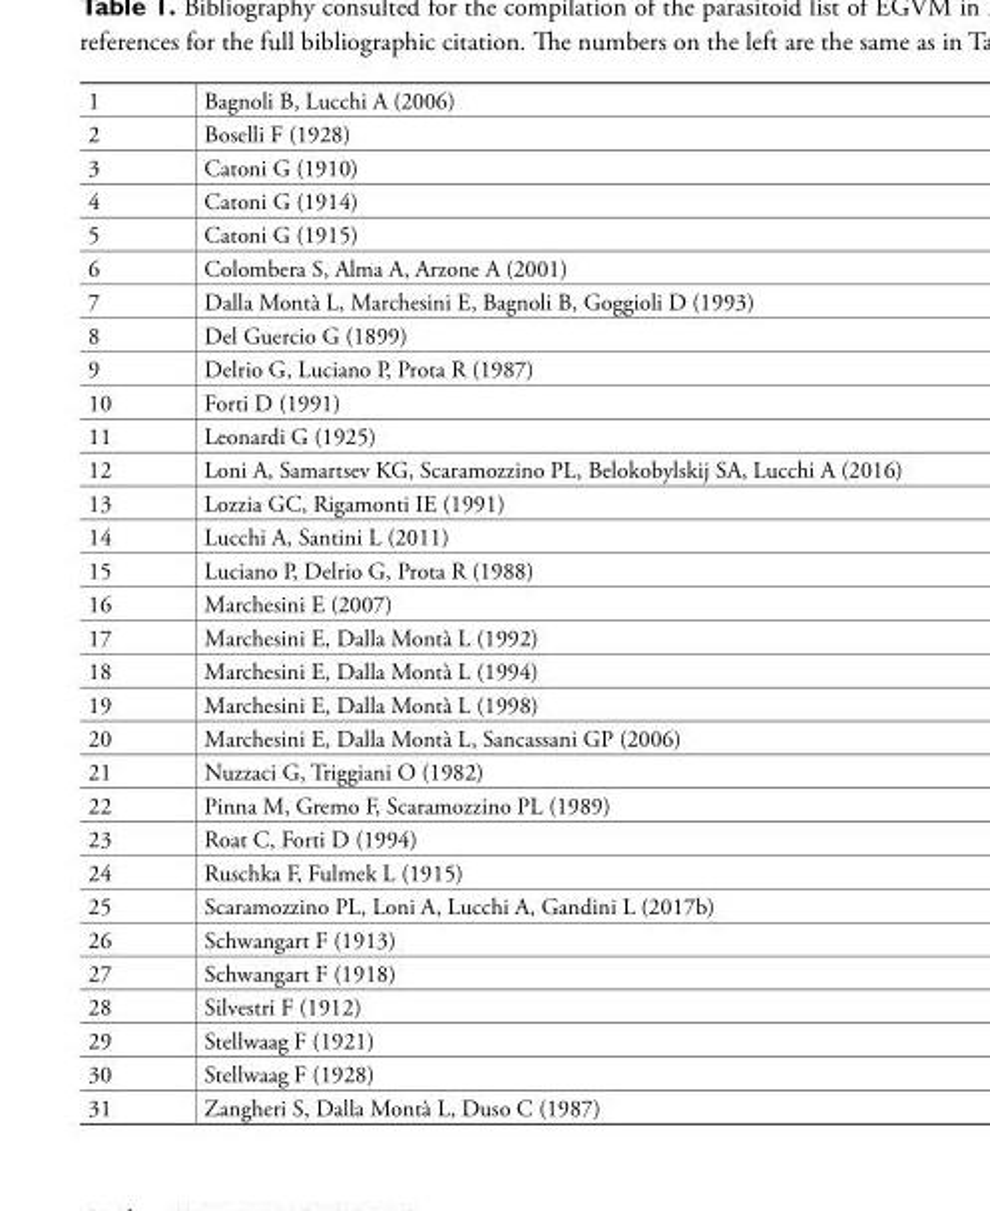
<table><tbody><tr><td>1</td><td>Bagnoli B, Lucchi A (2006)</td></tr><tr><td>2</td><td>Boselli F (1928)</td></tr><tr><td>3</td><td>Catoni G (1910)</td></tr><tr><td>4</td><td>Catoni G (1914)</td></tr><tr><td>5</td><td>Catoni G (1915)</td></tr><tr><td>6</td><td>Colombera S, Alma A, Arzone A (2001)</td></tr><tr><td>7</td><td>Dalla Montà L, Marchesini E, Bagnoli B, Goggioli D (1993)</td></tr><tr><td>8</td><td>Del Guercio G (1899)</td></tr><tr><td>9</td><td>Delrio G, Luciano P, Prota R (1987)</td></tr><tr><td>10</td><td>Forti D (1991)</td></tr><tr><td>11</td><td>Leonardi G (1925)</td></tr><tr><td>12</td><td>Loni A, Samartsev KG, Scaramozzino PL, Belokobylskij SA, Lucchi A (2016)</td></tr><tr><td>13</td><td>Lozzia GC, Rigamonti IE (1991)</td></tr><tr><td>14</td><td>Lucchi A, Santini L (2011)</td></tr><tr><td>15</td><td>Luciano P, Delrio G, Prota R (1988)</td></tr><tr><td>16</td><td>Marchesini E (2007)</td></tr><tr><td>17</td><td>Marchesini E, Dalla Montà L (1992)</td></tr><tr><td>18</td><td>Marchesini E, Dalla Montà L (1994)</td></tr><tr><td>19</td><td>Marchesini E, Dalla Montà L (1998)</td></tr><tr><td>20</td><td>Marchesini E, Dalla Montà L, Sancassani GP (2006)</td></tr><tr><td>21</td><td>Nuzzaci G, Triggiani O (1982)</td></tr><tr><td>22</td><td>Pinna M, Gremo F, Scaramozzino PL (1989)</td></tr><tr><td>23</td><td>Roat C, Forti D (1994)</td></tr><tr><td>24</td><td>Ruschka F, Fulmek L (1915)</td></tr><tr><td>25</td><td>Scaramozzino PL, Loni A, Lucchi A, Gandini L (2017b)</td></tr><tr><td>26</td><td>Schwangart F (1913)</td></tr><tr><td>27</td><td>Schwangart F (1918)</td></tr><tr><td>28</td><td>Silvestri F (1912)</td></tr><tr><td>29</td><td>Stellwaag F (1921)</td></tr><tr><td>30</td><td>Stellwaag F (1928)</td></tr><tr><td>31</td><td>Zangheri S, Dalla Montà L, Duso C (1987)</td></tr></tbody></table>